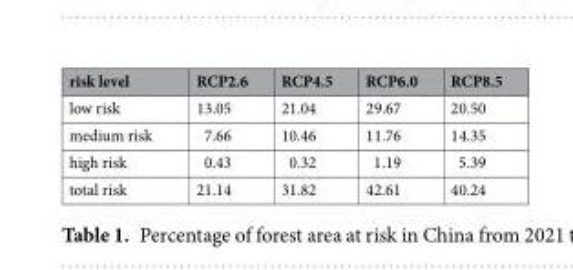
<table><thead><tr><td>risk level</td><td>RCP2.6</td><td>RCP4.5</td><td>RCP6.0</td><td>RCP8.5</td></tr></thead><tbody><tr><td>low risk</td><td>13.05</td><td>21.04</td><td>29.67</td><td>20.50</td></tr><tr><td>medium risk</td><td>7.66</td><td>10.46</td><td>11.76</td><td>14.35</td></tr><tr><td>high risk</td><td>0.43</td><td>0.32</td><td>1.19</td><td>5.39</td></tr><tr><td>total risk</td><td>21.14</td><td>31.82</td><td>42.61</td><td>40.24</td></tr></tbody></table>